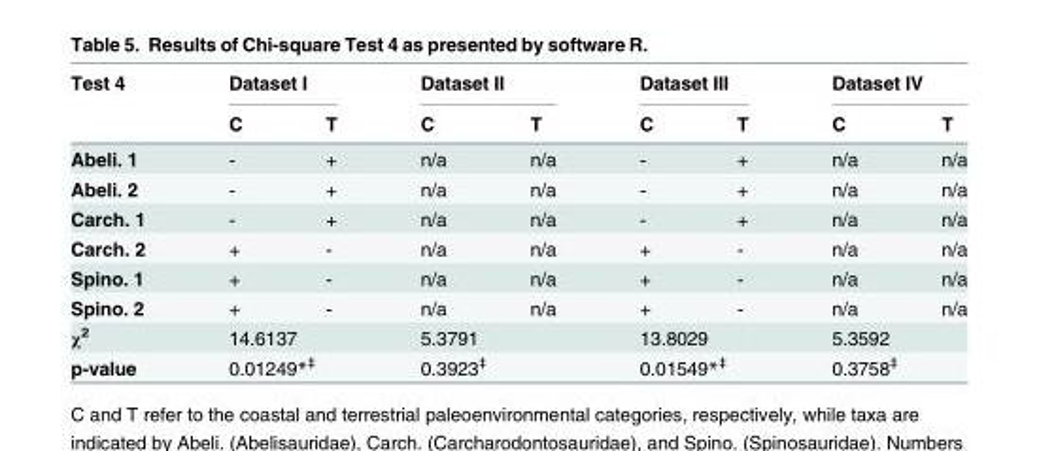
<table><thead><tr><td rowspan="2">Test 4</td><td colspan="2">Dataset I</td><td colspan="2">Dataset II</td><td colspan="2">Dataset III</td><td colspan="2">Dataset IV</td></tr><tr><td>C</td><td>T</td><td>C</td><td>T</td><td>C</td><td>T</td><td>C</td><td>T</td></tr></thead><tbody><tr><td>Abeli. 1</td><td>-</td><td>+</td><td>n/a</td><td>n/a</td><td>-</td><td>+</td><td>n/a</td><td>n/a</td></tr><tr><td>Abeli. 2</td><td>-</td><td>+</td><td>n/a</td><td>n/a</td><td>-</td><td>+</td><td>n/a</td><td>n/a</td></tr><tr><td>Carch. 1</td><td>-</td><td>+</td><td>n/a</td><td>n/a</td><td>-</td><td>+</td><td>n/a</td><td>n/a</td></tr><tr><td>Carch. 2</td><td>+</td><td>-</td><td>n/a</td><td>n/a</td><td>+</td><td>-</td><td>n/a</td><td>n/a</td></tr><tr><td>Spino. 1</td><td>+</td><td>-</td><td>n/a</td><td>n/a</td><td>+</td><td>-</td><td>n/a</td><td>n/a</td></tr><tr><td>Spino. 2</td><td>+</td><td>-</td><td>n/a</td><td>n/a</td><td>+</td><td>-</td><td>n/a</td><td>n/a</td></tr><tr><td>χ<sup>2</sup></td><td colspan="2">14.6137</td><td colspan="2">5.3791</td><td colspan="2">13.8029</td><td colspan="2">5.3592</td></tr><tr><td>p-value</td><td colspan="2">0.01249*<sup>‡</sup></td><td colspan="2">0.3923<sup>‡</sup></td><td colspan="2">0.01549*<sup>‡</sup></td><td colspan="2">0.3758<sup>‡</sup></td></tr></tbody></table>